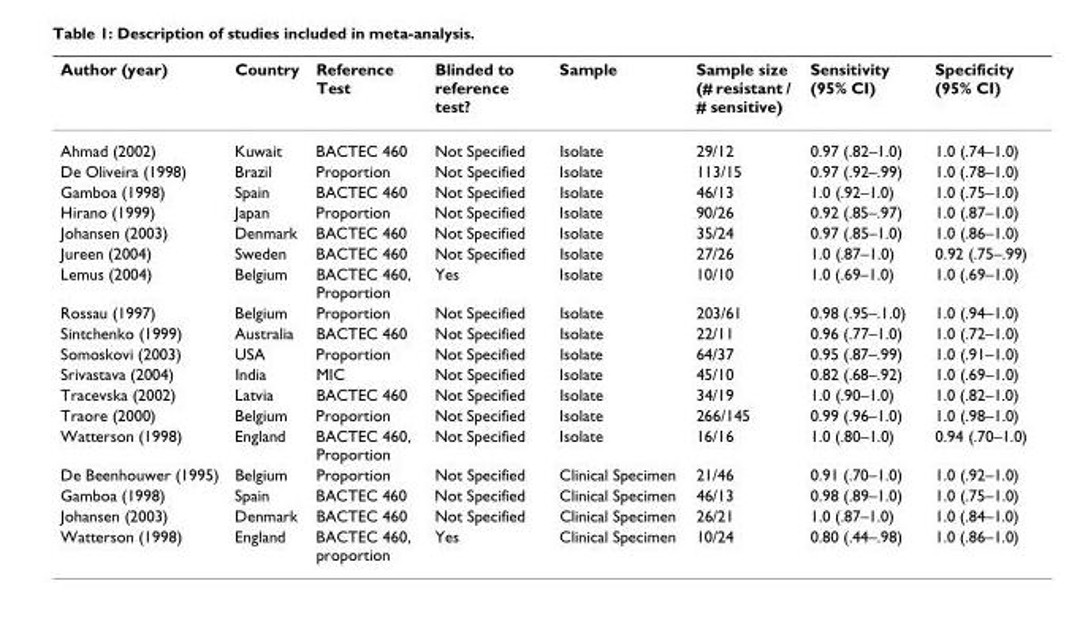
<table><thead><tr><td>Author (year)</td><td>Country</td><td>Reference Test</td><td>Blinded to reference test?</td><td>Sample</td><td>Sample size (# resistant / # sensitive)</td><td>Sensitivity (95% CI)</td><td>Specificity (95% CI)</td></tr></thead><tbody><tr><td>Ahmad (2002)</td><td>Kuwait</td><td>BACTEC 460</td><td>Not Specified</td><td>Isolate</td><td>29/12</td><td>0.97 (.82–1.0)</td><td>1.0 (.74–1.0)</td></tr><tr><td>De Oliveira (1998)</td><td>Brazil</td><td>Proportion</td><td>Not Specified</td><td>Isolate</td><td>113/15</td><td>0.97 (.92–.99)</td><td>1.0 (.78–1.0)</td></tr><tr><td>Gamboa (1998)</td><td>Spain</td><td>BACTEC 460</td><td>Not Specified</td><td>Isolate</td><td>46/13</td><td>1.0 (.92–1.0)</td><td>1.0 (.75–1.0)</td></tr><tr><td>Hirano (1999)</td><td>Japan</td><td>Proportion</td><td>Not Specified</td><td>Isolate</td><td>90/26</td><td>0.92 (.85–.97)</td><td>1.0 (.87–1.0)</td></tr><tr><td>Johansen (2003)</td><td>Denmark</td><td>BACTEC 460</td><td>Not Specified</td><td>Isolate</td><td>35/24</td><td>0.97 (.85–1.0)</td><td>1.0 (.86–1.0)</td></tr><tr><td>Jureen (2004)</td><td>Sweden</td><td>BACTEC 460</td><td>Not Specified</td><td>Isolate</td><td>27/26</td><td>1.0 (.87–1.0)</td><td>0.92 (.75–.99)</td></tr><tr><td>Lemus (2004)</td><td>Belgium</td><td>BACTEC 460, Proportion</td><td>Yes</td><td>Isolate</td><td>10/10</td><td>1.0 (.69–1.0)</td><td>1.0 (.69–1.0)</td></tr><tr><td>Rossau (1997)</td><td>Belgium</td><td>Proportion</td><td>Not Specified</td><td>Isolate</td><td>203/61</td><td>0.98 (.95–.1.0)</td><td>1.0 (.94–1.0)</td></tr><tr><td>Sintchenko (1999)</td><td>Australia</td><td>BACTEC 460</td><td>Not Specified</td><td>Isolate</td><td>22/11</td><td>0.96 (.77–1.0)</td><td>1.0 (.72–1.0)</td></tr><tr><td>Somoskovi (2003)</td><td>USA</td><td>Proportion</td><td>Not Specified</td><td>Isolate</td><td>64/37</td><td>0.95 (.87–.99)</td><td>1.0 (.91–1.0)</td></tr><tr><td>Srivastava (2004)</td><td>India</td><td>MIC</td><td>Not Specified</td><td>Isolate</td><td>45/10</td><td>0.82 (.68–.92)</td><td>1.0 (.69–1.0)</td></tr><tr><td>Tracevska (2002)</td><td>Latvia</td><td>BACTEC 460</td><td>Not Specified</td><td>Isolate</td><td>34/19</td><td>1.0 (.90–1.0)</td><td>1.0 (.82–1.0)</td></tr><tr><td>Traore (2000)</td><td>Belgium</td><td>Proportion</td><td>Not Specified</td><td>Isolate</td><td>266/145</td><td>0.99 (.96–1.0)</td><td>1.0 (.98–1.0)</td></tr><tr><td>Watterson (1998)</td><td>England</td><td>BACTEC 460, Proportion</td><td>Not Specified</td><td>Isolate</td><td>16/16</td><td>1.0 (.80–1.0)</td><td>0.94 (.70–1.0)</td></tr><tr><td>De Beenhouwer (1995)</td><td>Belgium</td><td>Proportion</td><td>Not Specified</td><td>Clinical Specimen</td><td>21/46</td><td>0.91 (.70–1.0)</td><td>1.0 (.92–1.0)</td></tr><tr><td>Gamboa (1998)</td><td>Spain</td><td>BACTEC 460</td><td>Not Specified</td><td>Clinical Specimen</td><td>46/13</td><td>0.98 (.89–1.0)</td><td>1.0 (.75–1.0)</td></tr><tr><td>Johansen (2003)</td><td>Denmark</td><td>BACTEC 460</td><td>Not Specified</td><td>Clinical Specimen</td><td>26/21</td><td>1.0 (.87–1.0)</td><td>1.0 (.84–1.0)</td></tr><tr><td>Watterson (1998)</td><td>England</td><td>BACTEC 460, proportion</td><td>Yes</td><td>Clinical Specimen</td><td>10/24</td><td>0.80 (.44–.98)</td><td>1.0 (.86–1.0)</td></tr></tbody></table>